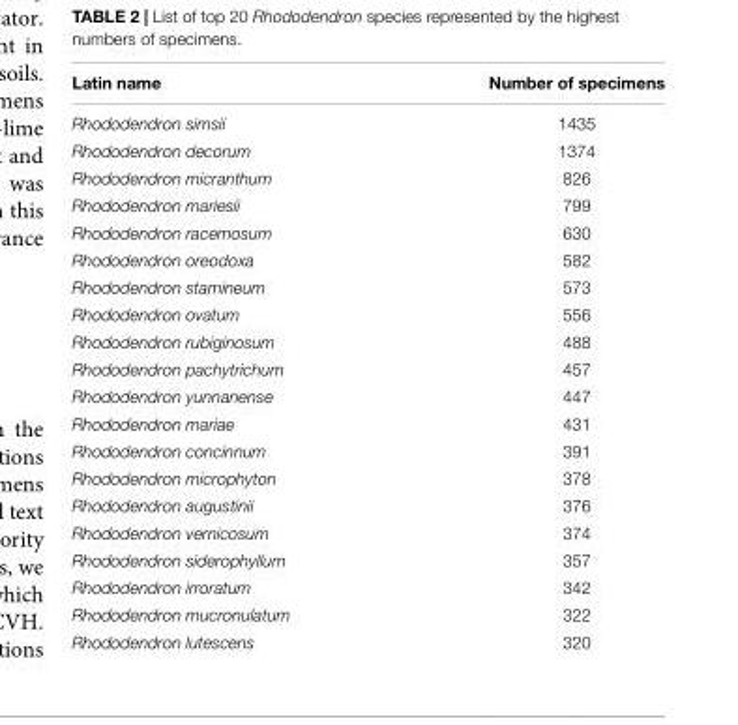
<table><thead><tr><td>Latin name</td><td>Number of specimens</td></tr></thead><tbody><tr><td>Rhododendron simsii</td><td>1435</td></tr><tr><td>Rhododendron decorum</td><td>1374</td></tr><tr><td>Rhododendron micranthum</td><td>826</td></tr><tr><td>Rhododendron mariesii</td><td>799</td></tr><tr><td>Rhododendron racemosum</td><td>630</td></tr><tr><td>Rhododendron oreodoxa</td><td>582</td></tr><tr><td>Rhododendron stamineum</td><td>573</td></tr><tr><td>Rhododendron ovatum</td><td>556</td></tr><tr><td>Rhododendron rubiginosum</td><td>488</td></tr><tr><td>Rhododendron pachytrichum</td><td>457</td></tr><tr><td>Rhododendron yunnanense</td><td>447</td></tr><tr><td>Rhododendron mariae</td><td>431</td></tr><tr><td>Rhododendron concinnum</td><td>391</td></tr><tr><td>Rhododendron microphyton</td><td>378</td></tr><tr><td>Rhododendron augustinii</td><td>376</td></tr><tr><td>Rhododendron vernicosum</td><td>374</td></tr><tr><td>Rhododendron siderophyllum</td><td>357</td></tr><tr><td>Rhododendron irroratum</td><td>342</td></tr><tr><td>Rhododendron mucronulatum</td><td>322</td></tr><tr><td>Rhododendron lutescens</td><td>320</td></tr></tbody></table>